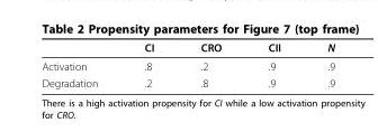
<table><thead><tr><td></td><td>CI</td><td>CRO</td><td>CII</td><td>N</td></tr></thead><tbody><tr><td>Activation</td><td>.8</td><td>.2</td><td>.9</td><td>.9</td></tr><tr><td>Degradation</td><td>.2</td><td>.8</td><td>.9</td><td>.9</td></tr></tbody></table>